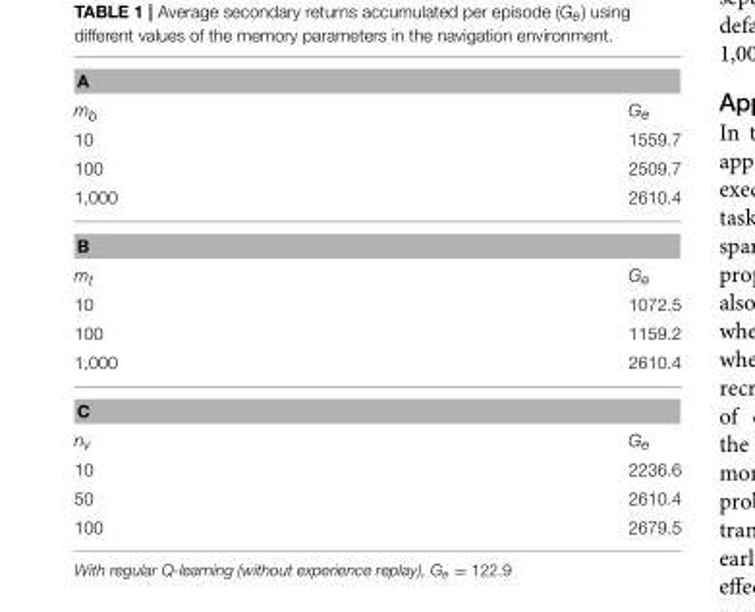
<table><thead><tr><td colspan="2">A</td></tr><tr><td rowspan="4">mb 10 100 1,000</td><td rowspan="4">Ge 1559.7 2509.7 2610.4</td></tr><tr></tr><tr></tr><tr></tr></thead><tbody><tr><td colspan="2">B</td></tr><tr><td>m<sub>t</sub></td><td>G<sub>e</sub></td></tr><tr><td>10</td><td>1072.5</td></tr><tr><td>100</td><td>1159.2</td></tr><tr><td>1,000</td><td>2610.4</td></tr><tr><td colspan="2">C</td></tr><tr><td>n<sub>v</sub></td><td>G<sub>e</sub></td></tr><tr><td>10</td><td>2236.6</td></tr><tr><td>50</td><td>2610.4</td></tr><tr><td>100</td><td>2679.5</td></tr></tbody></table>